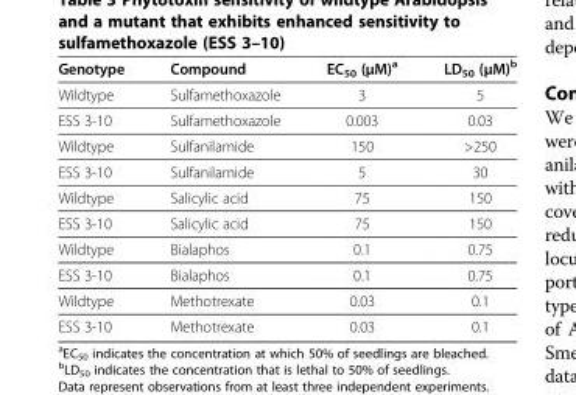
<table><thead><tr><td>Genotype</td><td>Compound</td><td>EC<sub>50</sub> (μM)<sup>a</sup></td><td>LD<sub>50</sub> (μM)<sup>b</sup></td></tr></thead><tbody><tr><td>Wildtype</td><td>Sulfamethoxazole</td><td>3</td><td>5</td></tr><tr><td>ESS 3-10</td><td>Sulfamethoxazole</td><td>0.003</td><td>0.03</td></tr><tr><td>Wildtype</td><td>Sulfanilamide</td><td>150</td><td>&gt;250</td></tr><tr><td>ESS 3-10</td><td>Sulfanilamide</td><td>5</td><td>30</td></tr><tr><td>Wildtype</td><td>Salicylic acid</td><td>75</td><td>150</td></tr><tr><td>ESS 3-10</td><td>Salicylic acid</td><td>75</td><td>150</td></tr><tr><td>Wildtype</td><td>Bialaphos</td><td>0.1</td><td>0.75</td></tr><tr><td>ESS 3-10</td><td>Bialaphos</td><td>0.1</td><td>0.75</td></tr><tr><td>Wildtype</td><td>Methotrexate</td><td>0.03</td><td>0.1</td></tr><tr><td>ESS 3-10</td><td>Methotrexate</td><td>0.03</td><td>0.1</td></tr></tbody></table>